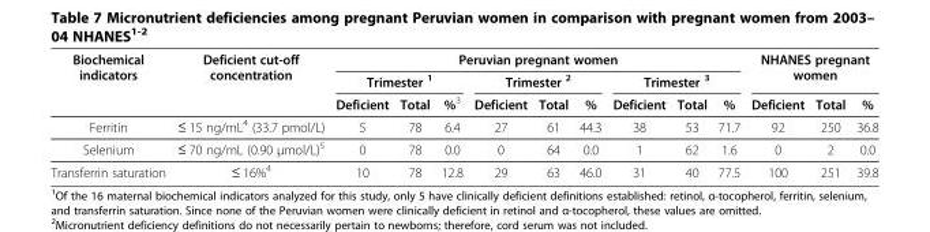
<table><thead><tr><td rowspan="3">Biochemical indicators</td><td rowspan="3">Deficient cut-off concentration</td><td colspan="9">Peruvian pregnant women</td><td rowspan="2" colspan="3">NHANES pregnant women</td></tr><tr><td colspan="3">Trimester <sup>1</sup></td><td colspan="3">Trimester <sup>2</sup></td><td colspan="3">Trimester <sup>3</sup></td></tr><tr><td>Deficient</td><td>Total</td><td>%<sup>3</sup></td><td>Deficient</td><td>Total</td><td>%</td><td>Deficient</td><td>Total</td><td>%</td><td>Deficient</td><td>Total</td><td>%</td></tr></thead><tbody><tr><td>Ferritin</td><td>≤ 15 ng/mL<sup>4</sup> (33.7 pmol/L)</td><td>5</td><td>78</td><td>6.4</td><td>27</td><td>61</td><td>44.3</td><td>38</td><td>53</td><td>71.7</td><td>92</td><td>250</td><td>36.8</td></tr><tr><td>Selenium</td><td>≤ 70 ng/mL (0.90 μmol/L)<sup>5</sup></td><td>0</td><td>78</td><td>0.0</td><td>0</td><td>64</td><td>0.0</td><td>1</td><td>62</td><td>1.6</td><td>0</td><td>2</td><td>0.0</td></tr><tr><td>Transferrin saturation</td><td>≤ 16%<sup>4</sup></td><td>10</td><td>78</td><td>12.8</td><td>29</td><td>63</td><td>46.0</td><td>31</td><td>40</td><td>77.5</td><td>100</td><td>251</td><td>39.8</td></tr></tbody></table>